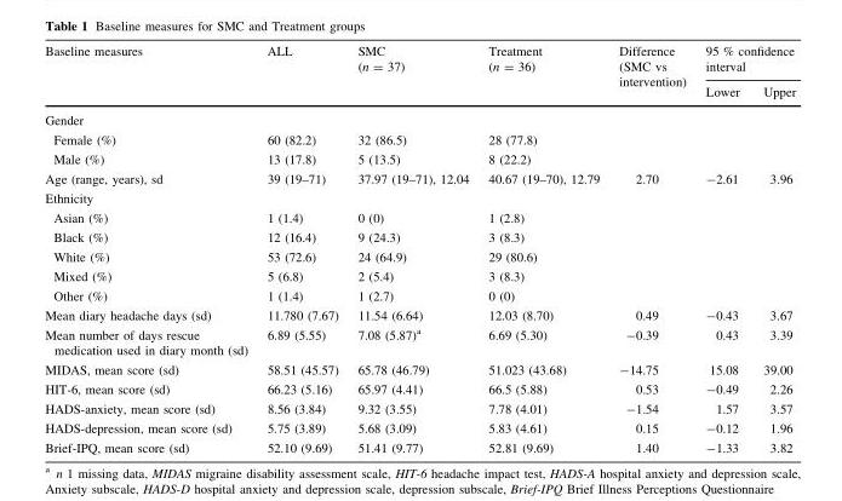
<table><thead><tr><td rowspan="2">Baseline measures</td><td rowspan="2">ALL</td><td rowspan="2">SMC (n = 37)</td><td rowspan="2">Treatment (n = 36)</td><td rowspan="2">Difference (SMC vs intervention)</td><td colspan="2">95 % confidence interval</td></tr><tr><td>Lower</td><td>Upper</td></tr></thead><tbody><tr><td colspan="7">Gender</td></tr><tr><td>Female (%)</td><td>60 (82.2)</td><td>32 (86.5)</td><td>28 (77.8)</td><td></td><td></td><td></td></tr><tr><td>Male (%)</td><td>13 (17.8)</td><td>5 (13.5)</td><td>8 (22.2)</td><td></td><td></td><td></td></tr><tr><td>Age (range, years), sd</td><td>39 (19–71)</td><td>37.97 (19–71), 12.04</td><td>40.67 (19–70), 12.79</td><td>2.70</td><td>-2.61</td><td>3.96</td></tr><tr><td colspan="7">Ethnicity</td></tr><tr><td>Asian (%)</td><td>1 (1.4)</td><td>0 (0)</td><td>1 (2.8)</td><td></td><td></td><td></td></tr><tr><td>Black (%)</td><td>12 (16.4)</td><td>9 (24.3)</td><td>3 (8.3)</td><td></td><td></td><td></td></tr><tr><td>White (%)</td><td>53 (72.6)</td><td>24 (64.9)</td><td>29 (80.6)</td><td></td><td></td><td></td></tr><tr><td>Mixed (%)</td><td>5 (6.8)</td><td>2 (5.4)</td><td>3 (8.3)</td><td></td><td></td><td></td></tr><tr><td>Other (%)</td><td>1 (1.4)</td><td>1 (2.7)</td><td>0 (0)</td><td></td><td></td><td></td></tr><tr><td>Mean diary headache days (sd)</td><td>11.780 (7.67)</td><td>11.54 (6.64)</td><td>12.03 (8.70)</td><td>0.49</td><td>-0.43</td><td>3.67</td></tr><tr><td>Mean number of days rescue medication used in diary month (sd)</td><td>6.89 (5.55)</td><td>7.08 (5.87)<sup>a</sup></td><td>6.69 (5.30)</td><td>-0.39</td><td>0.43</td><td>3.39</td></tr><tr><td>MIDAS, mean score (sd)</td><td>58.51 (45.57)</td><td>65.78 (46.79)</td><td>51.023 (43.68)</td><td>-14.75</td><td>15.08</td><td>39.00</td></tr><tr><td>HIT-6, mean score (sd)</td><td>66.23 (5.16)</td><td>65.97 (4.41)</td><td>66.5 (5.88)</td><td>0.53</td><td>-0.49</td><td>2.26</td></tr><tr><td>HADS-anxiety, mean score (sd)</td><td>8.56 (3.84)</td><td>9.32 (3.55)</td><td>7.78 (4.01)</td><td>-1.54</td><td>1.57</td><td>3.57</td></tr><tr><td>HADS-depression, mean score (sd)</td><td>5.75 (3.89)</td><td>5.68 (3.09)</td><td>5.83 (4.61)</td><td>0.15</td><td>-0.12</td><td>1.96</td></tr><tr><td>Brief-IPQ, mean score (sd)</td><td>52.10 (9.69)</td><td>51.41 (9.77)</td><td>52.81 (9.69)</td><td>1.40</td><td>-1.33</td><td>3.82</td></tr></tbody></table>